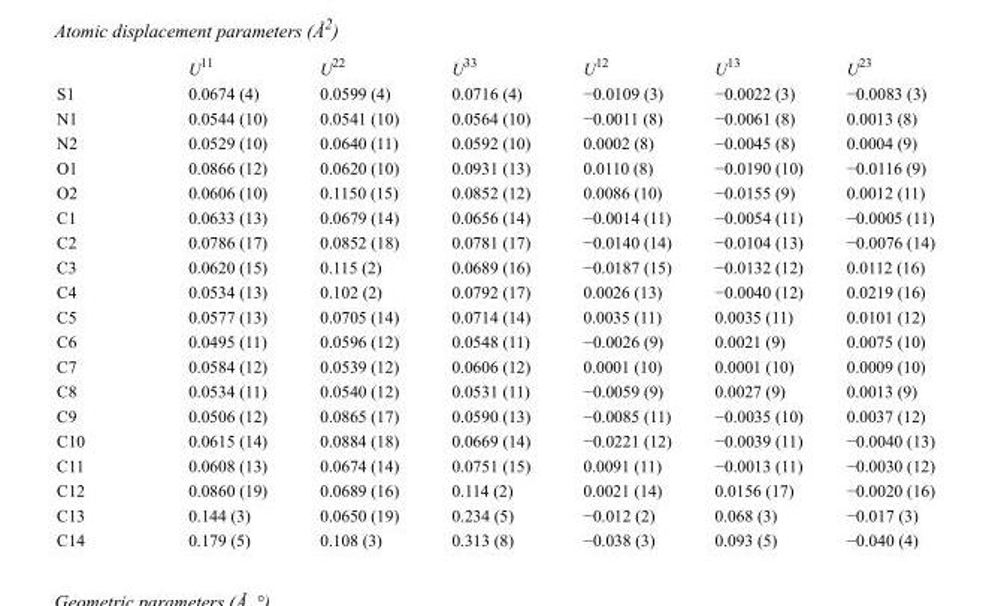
<table><thead><tr><td></td><td>U<sup>11</sup></td><td>U<sup>22</sup></td><td>U<sup>33</sup></td><td>U<sup>12</sup></td><td>U<sup>13</sup></td><td>U<sup>23</sup></td></tr></thead><tbody><tr><td>S1</td><td>0.0674 (4)</td><td>0.0599 (4)</td><td>0.0716 (4)</td><td>−0.0109 (3)</td><td>−0.0022 (3)</td><td>−0.0083 (3)</td></tr><tr><td>N1</td><td>0.0544 (10)</td><td>0.0541 (10)</td><td>0.0564 (10)</td><td>−0.0011 (8)</td><td>−0.0061 (8)</td><td>0.0013 (8)</td></tr><tr><td>N2</td><td>0.0529 (10)</td><td>0.0640 (11)</td><td>0.0592 (10)</td><td>0.0002 (8)</td><td>−0.0045 (8)</td><td>0.0004 (9)</td></tr><tr><td>O1</td><td>0.0866 (12)</td><td>0.0620 (10)</td><td>0.0931 (13)</td><td>0.0110 (8)</td><td>−0.0190 (10)</td><td>−0.0116 (9)</td></tr><tr><td>O2</td><td>0.0606 (10)</td><td>0.1150 (15)</td><td>0.0852 (12)</td><td>0.0086 (10)</td><td>−0.0155 (9)</td><td>0.0012 (11)</td></tr><tr><td>C1</td><td>0.0633 (13)</td><td>0.0679 (14)</td><td>0.0656 (14)</td><td>−0.0014 (11)</td><td>−0.0054 (11)</td><td>−0.0005 (11)</td></tr><tr><td>C2</td><td>0.0786 (17)</td><td>0.0852 (18)</td><td>0.0781 (17)</td><td>−0.0140 (14)</td><td>−0.0104 (13)</td><td>−0.0076 (14)</td></tr><tr><td>C3</td><td>0.0620 (15)</td><td>0.115 (2)</td><td>0.0689 (16)</td><td>−0.0187 (15)</td><td>−0.0132 (12)</td><td>0.0112 (16)</td></tr><tr><td>C4</td><td>0.0534 (13)</td><td>0.102 (2)</td><td>0.0792 (17)</td><td>0.0026 (13)</td><td>−0.0040 (12)</td><td>0.0219 (16)</td></tr><tr><td>C5</td><td>0.0577 (13)</td><td>0.0705 (14)</td><td>0.0714 (14)</td><td>0.0035 (11)</td><td>0.0035 (11)</td><td>0.0101 (12)</td></tr><tr><td>C6</td><td>0.0495 (11)</td><td>0.0596 (12)</td><td>0.0548 (11)</td><td>−0.0026 (9)</td><td>0.0021 (9)</td><td>0.0075 (10)</td></tr><tr><td>C7</td><td>0.0584 (12)</td><td>0.0539 (12)</td><td>0.0606 (12)</td><td>0.0001 (10)</td><td>0.0001 (10)</td><td>0.0009 (10)</td></tr><tr><td>C8</td><td>0.0534 (11)</td><td>0.0540 (12)</td><td>0.0531 (11)</td><td>−0.0059 (9)</td><td>0.0027 (9)</td><td>0.0013 (9)</td></tr><tr><td>C9</td><td>0.0506 (12)</td><td>0.0865 (17)</td><td>0.0590 (13)</td><td>−0.0085 (11)</td><td>−0.0035 (10)</td><td>0.0037 (12)</td></tr><tr><td>C10</td><td>0.0615 (14)</td><td>0.0884 (18)</td><td>0.0669 (14)</td><td>−0.0221 (12)</td><td>−0.0039 (11)</td><td>−0.0040 (13)</td></tr><tr><td>C11</td><td>0.0608 (13)</td><td>0.0674 (14)</td><td>0.0751 (15)</td><td>0.0091 (11)</td><td>−0.0013 (11)</td><td>−0.0030 (12)</td></tr><tr><td>C12</td><td>0.0860 (19)</td><td>0.0689 (16)</td><td>0.114 (2)</td><td>0.0021 (14)</td><td>0.0156 (17)</td><td>−0.0020 (16)</td></tr><tr><td>C13</td><td>0.144 (3)</td><td>0.0650 (19)</td><td>0.234 (5)</td><td>−0.012 (2)</td><td>0.068 (3)</td><td>−0.017 (3)</td></tr><tr><td>C14</td><td>0.179 (5)</td><td>0.108 (3)</td><td>0.313 (8)</td><td>−0.038 (3)</td><td>0.093 (5)</td><td>−0.040 (4)</td></tr></tbody></table>